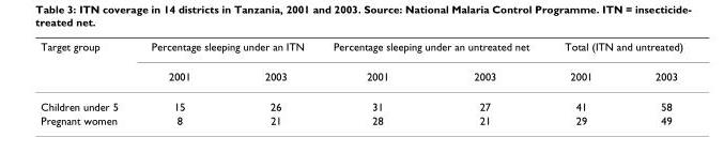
<table><thead><tr><td rowspan="2">Target group</td><td colspan="2">Percentage sleeping under an ITN</td><td colspan="2">Percentage sleeping under an untreated net</td><td colspan="2">Total (ITN and untreated)</td></tr><tr><td>2001</td><td>2003</td><td>2001</td><td>2003</td><td>2001</td><td>2003</td></tr></thead><tbody><tr><td>Children under 5</td><td>15</td><td>26</td><td>31</td><td>27</td><td>41</td><td>58</td></tr><tr><td>Pregnant women</td><td>8</td><td>21</td><td>28</td><td>21</td><td>29</td><td>49</td></tr></tbody></table>